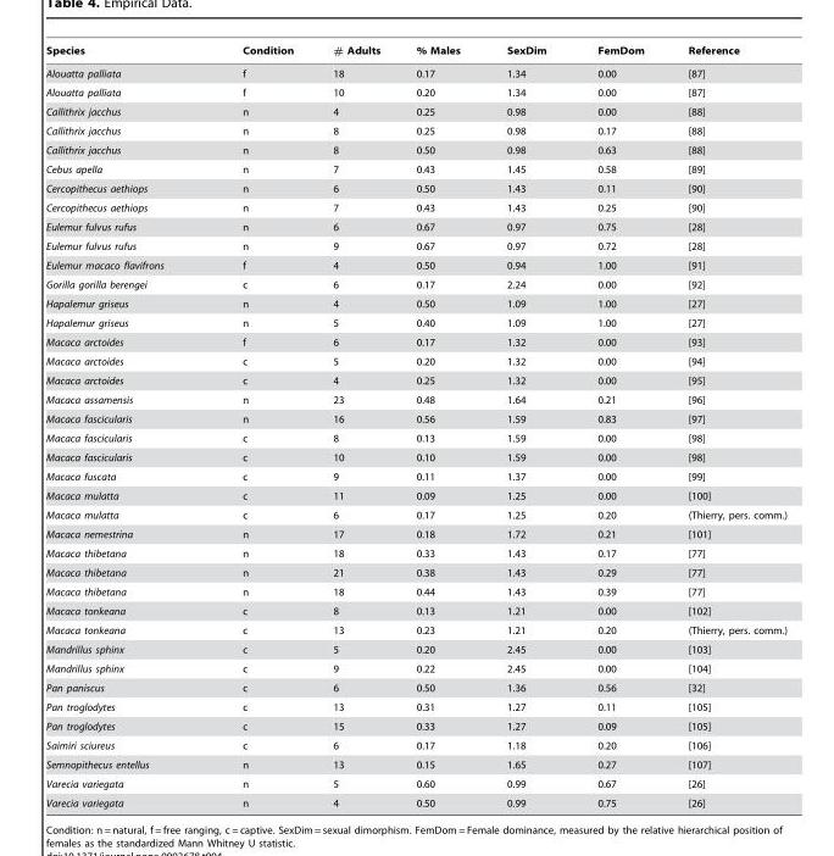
<table><thead><tr><td>Species</td><td>Condition</td><td># Adults</td><td>% Males</td><td>SexDim</td><td>FemDom</td><td>Reference</td></tr></thead><tbody><tr><td>Alouatta palliata</td><td>f</td><td>18</td><td>0.17</td><td>1.34</td><td>0.00</td><td>[87]</td></tr><tr><td>Alouatta palliata</td><td>f</td><td>10</td><td>0.20</td><td>1.34</td><td>0.00</td><td>[87]</td></tr><tr><td>Callithrix jacchus</td><td>n</td><td>4</td><td>0.25</td><td>0.98</td><td>0.00</td><td>[88]</td></tr><tr><td>Callithrix jacchus</td><td>n</td><td>8</td><td>0.25</td><td>0.98</td><td>0.17</td><td>[88]</td></tr><tr><td>Callithrix jacchus</td><td>n</td><td>8</td><td>0.50</td><td>0.98</td><td>0.63</td><td>[88]</td></tr><tr><td>Cebus apella</td><td>n</td><td>7</td><td>0.43</td><td>1.45</td><td>0.58</td><td>[89]</td></tr><tr><td>Cercopithecus aethiops</td><td>n</td><td>6</td><td>0.50</td><td>1.43</td><td>0.11</td><td>[90]</td></tr><tr><td>Cercopithecus aethiops</td><td>n</td><td>7</td><td>0.43</td><td>1.43</td><td>0.25</td><td>[90]</td></tr><tr><td>Eulemur fulvus rufus</td><td>n</td><td>6</td><td>0.67</td><td>0.97</td><td>0.75</td><td>[28]</td></tr><tr><td>Eulemur fulvus rufus</td><td>n</td><td>9</td><td>0.67</td><td>0.97</td><td>0.72</td><td>[28]</td></tr><tr><td>Eulemur macaco flavifrons</td><td>f</td><td>4</td><td>0.50</td><td>0.94</td><td>1.00</td><td>[91]</td></tr><tr><td>Gorilla gorilla berengei</td><td>c</td><td>6</td><td>0.17</td><td>2.24</td><td>0.00</td><td>[92]</td></tr><tr><td>Hapalemur griseus</td><td>n</td><td>4</td><td>0.50</td><td>1.09</td><td>1.00</td><td>[27]</td></tr><tr><td>Hapalemur griseus</td><td>n</td><td>5</td><td>0.40</td><td>1.09</td><td>1.00</td><td>[27]</td></tr><tr><td>Macaca arctoides</td><td>f</td><td>6</td><td>0.17</td><td>1.32</td><td>0.00</td><td>[93]</td></tr><tr><td>Macaca arctoides</td><td>c</td><td>5</td><td>0.20</td><td>1.32</td><td>0.00</td><td>[94]</td></tr><tr><td>Macaca arctoides</td><td>c</td><td>4</td><td>0.25</td><td>1.32</td><td>0.00</td><td>[95]</td></tr><tr><td>Macaca assamensis</td><td>n</td><td>23</td><td>0.48</td><td>1.64</td><td>0.21</td><td>[96]</td></tr><tr><td>Macaca fascicularis</td><td>n</td><td>16</td><td>0.56</td><td>1.59</td><td>0.83</td><td>[97]</td></tr><tr><td>Macaca fascicularis</td><td>c</td><td>8</td><td>0.13</td><td>1.59</td><td>0.00</td><td>[98]</td></tr><tr><td>Macaca fascicularis</td><td>c</td><td>10</td><td>0.10</td><td>1.59</td><td>0.00</td><td>[98]</td></tr><tr><td>Macaca fuscata</td><td>c</td><td>9</td><td>0.11</td><td>1.37</td><td>0.00</td><td>[99]</td></tr><tr><td>Macaca mulatta</td><td>c</td><td>11</td><td>0.09</td><td>1.25</td><td>0.00</td><td>[100]</td></tr><tr><td>Macaca mulatta</td><td>c</td><td>6</td><td>0.17</td><td>1.25</td><td>0.20</td><td>(Thierry, pers. comm.)</td></tr><tr><td>Macaca nemestrina</td><td>n</td><td>17</td><td>0.18</td><td>1.72</td><td>0.21</td><td>[101]</td></tr><tr><td>Macaca thibetana</td><td>n</td><td>18</td><td>0.33</td><td>1.43</td><td>0.17</td><td>[77]</td></tr><tr><td>Macaca thibetana</td><td>n</td><td>21</td><td>0.38</td><td>1.43</td><td>0.29</td><td>[77]</td></tr><tr><td>Macaca thibetana</td><td>n</td><td>18</td><td>0.44</td><td>1.43</td><td>0.39</td><td>[77]</td></tr><tr><td>Macaca tonkeana</td><td>c</td><td>8</td><td>0.13</td><td>1.21</td><td>0.00</td><td>[102]</td></tr><tr><td>Macaca tonkeana</td><td>c</td><td>13</td><td>0.23</td><td>1.21</td><td>0.20</td><td>(Thierry, pers. comm.)</td></tr><tr><td>Mandrillus sphinx</td><td>c</td><td>5</td><td>0.20</td><td>2.45</td><td>0.00</td><td>[103]</td></tr><tr><td>Mandrillus sphinx</td><td>c</td><td>9</td><td>0.22</td><td>2.45</td><td>0.00</td><td>[104]</td></tr><tr><td>Pan paniscus</td><td>c</td><td>6</td><td>0.50</td><td>1.36</td><td>0.56</td><td>[32]</td></tr><tr><td>Pan troglodytes</td><td>c</td><td>13</td><td>0.31</td><td>1.27</td><td>0.11</td><td>[105]</td></tr><tr><td>Pan troglodytes</td><td>c</td><td>15</td><td>0.33</td><td>1.27</td><td>0.09</td><td>[105]</td></tr><tr><td>Saimiri sciureus</td><td>c</td><td>6</td><td>0.17</td><td>1.18</td><td>0.20</td><td>[106]</td></tr><tr><td>Semnopithecus entellus</td><td>n</td><td>13</td><td>0.15</td><td>1.65</td><td>0.27</td><td>[107]</td></tr><tr><td>Varecia variegata</td><td>n</td><td>5</td><td>0.60</td><td>0.99</td><td>0.67</td><td>[26]</td></tr><tr><td>Varecia variegata</td><td>n</td><td>4</td><td>0.50</td><td>0.99</td><td>0.75</td><td>[26]</td></tr></tbody></table>